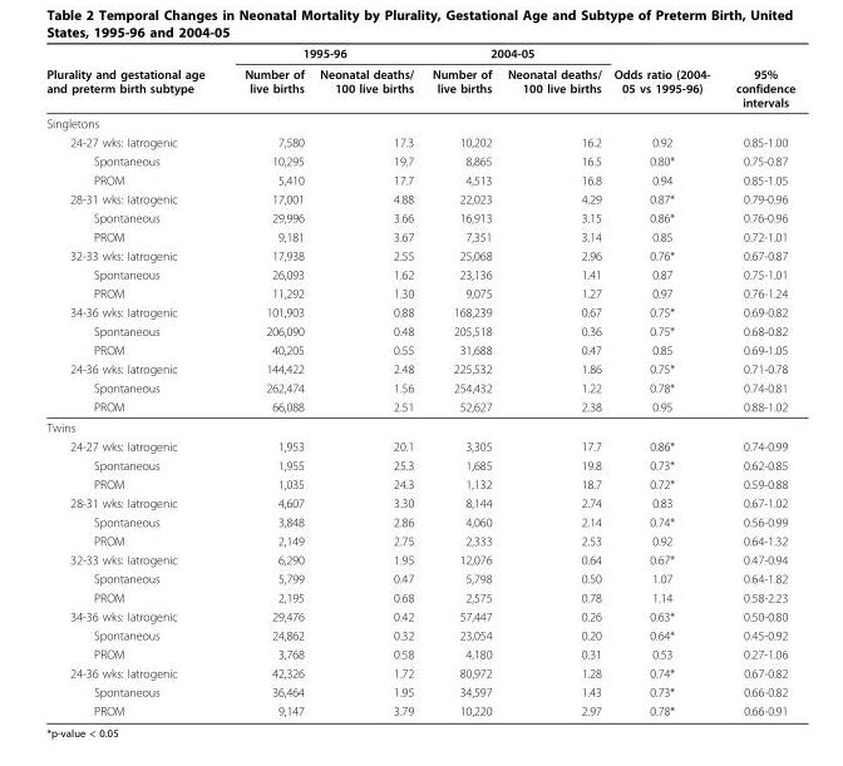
<table><thead><tr><td rowspan="2">Plurality and gestational age and preterm birth subtype</td><td colspan="2">1995-96</td><td colspan="2">2004-05</td><td rowspan="2">Odds ratio (2004- 05 vs 1995-96)</td><td rowspan="2">95% confidence intervals</td></tr><tr><td>Number of live births</td><td>Neonatal deaths/ 100 live births</td><td>Number of live births</td><td>Neonatal deaths/ 100 live births</td></tr></thead><tbody><tr><td colspan="7">Singletons</td></tr><tr><td>24-27 wks: Iatrogenic</td><td>7,580</td><td>17.3</td><td>10,202</td><td>16.2</td><td>0.92</td><td>0.85-1.00</td></tr><tr><td>Spontaneous</td><td>10,295</td><td>19.7</td><td>8,865</td><td>16.5</td><td>0.80*</td><td>0.75-0.87</td></tr><tr><td>PROM</td><td>5,410</td><td>17.7</td><td>4,513</td><td>16.8</td><td>0.94</td><td>0.85-1.05</td></tr><tr><td>28-31 wks: Iatrogenic</td><td>17,001</td><td>4.88</td><td>22,023</td><td>4.29</td><td>0.87*</td><td>0.79-0.96</td></tr><tr><td>Spontaneous</td><td>29,996</td><td>3.66</td><td>16,913</td><td>3.15</td><td>0.86*</td><td>0.76-0.96</td></tr><tr><td>PROM</td><td>9,181</td><td>3.67</td><td>7,351</td><td>3.14</td><td>0.85</td><td>0.72-1.01</td></tr><tr><td>32-33 wks: Iatrogenic</td><td>17,938</td><td>2.55</td><td>25,068</td><td>2.96</td><td>0.76*</td><td>0.67-0.87</td></tr><tr><td>Spontaneous</td><td>26,093</td><td>1.62</td><td>23,136</td><td>1.41</td><td>0.87</td><td>0.75-1.01</td></tr><tr><td>PROM</td><td>11,292</td><td>1.30</td><td>9,075</td><td>1.27</td><td>0.97</td><td>0.76-1.24</td></tr><tr><td>34-36 wks: Iatrogenic</td><td>101,903</td><td>0.88</td><td>168,239</td><td>0.67</td><td>0.75*</td><td>0.69-0.82</td></tr><tr><td>Spontaneous</td><td>206,090</td><td>0.48</td><td>205,518</td><td>0.36</td><td>0.75*</td><td>0.68-0.82</td></tr><tr><td>PROM</td><td>40,205</td><td>0.55</td><td>31,688</td><td>0.47</td><td>0.85</td><td>0.69-1.05</td></tr><tr><td>24-36 wks: Iatrogenic</td><td>144,422</td><td>2.48</td><td>225,532</td><td>1.86</td><td>0.75*</td><td>0.71-0.78</td></tr><tr><td>Spontaneous</td><td>262,474</td><td>1.56</td><td>254,432</td><td>1.22</td><td>0.78*</td><td>0.74-0.81</td></tr><tr><td>PROM</td><td>66,088</td><td>2.51</td><td>52,627</td><td>2.38</td><td>0.95</td><td>0.88-1.02</td></tr><tr><td colspan="7">Twins</td></tr><tr><td>24-27 wks: Iatrogenic</td><td>1,953</td><td>20.1</td><td>3,305</td><td>17.7</td><td>0.86*</td><td>0.74-0.99</td></tr><tr><td>Spontaneous</td><td>1,955</td><td>25.3</td><td>1,685</td><td>19.8</td><td>0.73*</td><td>0.62-0.85</td></tr><tr><td>PROM</td><td>1,035</td><td>24.3</td><td>1,132</td><td>18.7</td><td>0.72*</td><td>0.59-0.88</td></tr><tr><td>28-31 wks: Iatrogenic</td><td>4,607</td><td>3.30</td><td>8,144</td><td>2.74</td><td>0.83</td><td>0.67-1.02</td></tr><tr><td>Spontaneous</td><td>3,848</td><td>2.86</td><td>4,060</td><td>2.14</td><td>0.74*</td><td>0.56-0.99</td></tr><tr><td>PROM</td><td>2,149</td><td>2.75</td><td>2,333</td><td>2.53</td><td>0.92</td><td>0.64-1.32</td></tr><tr><td>32-33 wks: Iatrogenic</td><td>6,290</td><td>1.95</td><td>12,076</td><td>0.64</td><td>0.67*</td><td>0.47-0.94</td></tr><tr><td>Spontaneous</td><td>5,799</td><td>0.47</td><td>5,798</td><td>0.50</td><td>1.07</td><td>0.64-1.82</td></tr><tr><td>PROM</td><td>2,195</td><td>0.68</td><td>2,575</td><td>0.78</td><td>1.14</td><td>0.58-2.23</td></tr><tr><td>34-36 wks: Iatrogenic</td><td>29,476</td><td>0.42</td><td>57,447</td><td>0.26</td><td>0.63*</td><td>0.50-0.80</td></tr><tr><td>Spontaneous</td><td>24,862</td><td>0.32</td><td>23,054</td><td>0.20</td><td>0.64*</td><td>0.45-0.92</td></tr><tr><td>PROM</td><td>3,768</td><td>0.58</td><td>4,180</td><td>0.31</td><td>0.53</td><td>0.27-1.06</td></tr><tr><td>24-36 wks: Iatrogenic</td><td>42,326</td><td>1.72</td><td>80,972</td><td>1.28</td><td>0.74*</td><td>0.67-0.82</td></tr><tr><td>Spontaneous</td><td>36,464</td><td>1.95</td><td>34,597</td><td>1.43</td><td>0.73*</td><td>0.66-0.82</td></tr><tr><td>PROM</td><td>9,147</td><td>3.79</td><td>10,220</td><td>2.97</td><td>0.78*</td><td>0.66-0.91</td></tr></tbody></table>